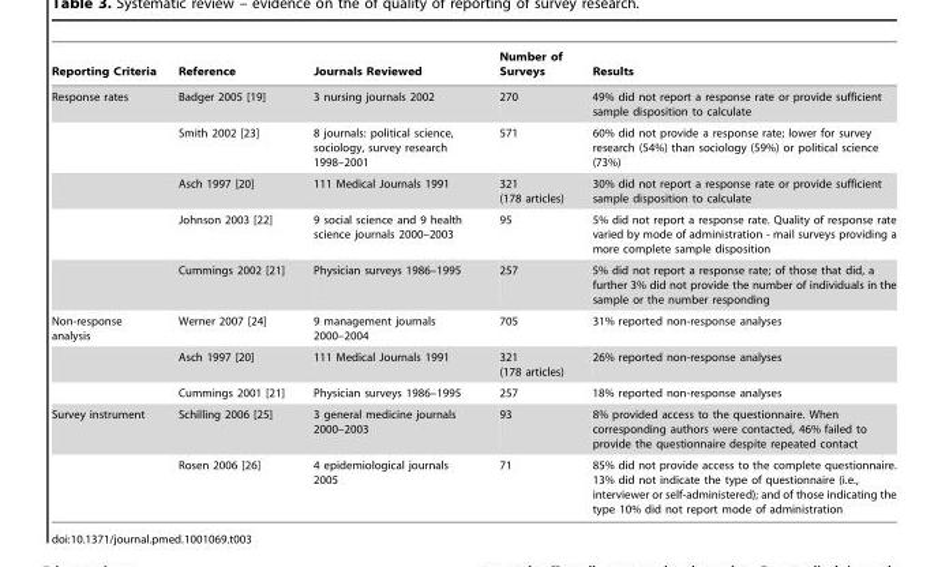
<table><thead><tr><td>Reporting Criteria</td><td>Reference</td><td>Journals Reviewed</td><td>Number of Surveys</td><td>Results</td></tr></thead><tbody><tr><td rowspan="5">Response rates</td><td>Badger 2005 [19]</td><td>3 nursing journals 2002</td><td>270</td><td>49% did not report a response rate or provide sufficient sample disposition to calculate</td></tr><tr><td>Smith 2002 [23]</td><td>8 journals: political science, sociology, survey research 1998–2001</td><td>571</td><td>60% did not provide a response rate; lower for survey research (54%) than sociology (59%) or political science (73%)</td></tr><tr><td>Asch 1997 [20]</td><td>111 Medical Journals 1991</td><td>321 (178 articles)</td><td>30% did not report a response rate or provide sufficient sample disposition to calculate</td></tr><tr><td>Johnson 2003 [22]</td><td>9 social science and 9 health science journals 2000–2003</td><td>95</td><td>5% did not report a response rate. Quality of response rate varied by mode of administration - mail surveys providing a more complete sample disposition</td></tr><tr><td>Cummings 2002 [21]</td><td>Physician surveys 1986–1995</td><td>257</td><td>5% did not report a response rate; of those that did, a further 3% did not provide the number of individuals in the sample or the number responding</td></tr><tr><td rowspan="3">Non-response analysis</td><td>Werner 2007 [24]</td><td>9 management journals 2000–2004</td><td>705</td><td>31% reported non-response analyses</td></tr><tr><td>Asch 1997 [20]</td><td>111 Medical Journals 1991</td><td>321 (178 articles)</td><td>26% reported non-response analyses</td></tr><tr><td>Cummings 2001 [21]</td><td>Physician surveys 1986–1995</td><td>257</td><td>18% reported non-response analyses</td></tr><tr><td rowspan="2">Survey instrument</td><td>Schilling 2006 [25]</td><td>3 general medicine journals 2000–2003</td><td>93</td><td>8% provided access to the questionnaire. When corresponding authors were contacted, 46% failed to provide the questionnaire despite repeated contact</td></tr><tr><td>Rosen 2006 [26]</td><td>4 epidemiological journals 2005</td><td>71</td><td>85% did not provide access to the complete questionnaire. 13% did not indicate the type of questionnaire (i.e., interviewer or self-administered); and of those indicating the type 10% did not report mode of administration</td></tr></tbody></table>